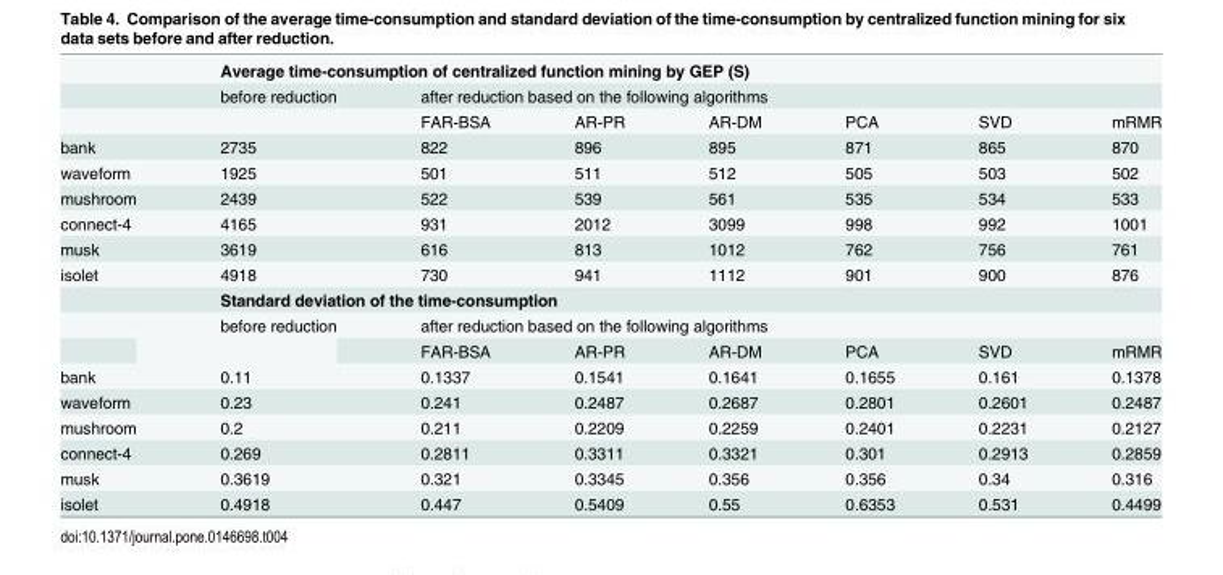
<table><thead><tr><td rowspan="3"></td><td colspan="7">Average time-consumption of centralized function mining by GEP (S)</td></tr><tr><td rowspan="2">before reduction</td><td colspan="6">after reduction based on the following algorithms</td></tr><tr><td>FAR-BSA</td><td>AR-PR</td><td>AR-DM</td><td>PCA</td><td>SVD</td><td>mRMR</td></tr></thead><tbody><tr><td>bank</td><td>2735</td><td>822</td><td>896</td><td>895</td><td>871</td><td>865</td><td>870</td></tr><tr><td>waveform</td><td>1925</td><td>501</td><td>511</td><td>512</td><td>505</td><td>503</td><td>502</td></tr><tr><td>mushroom</td><td>2439</td><td>522</td><td>539</td><td>561</td><td>535</td><td>534</td><td>533</td></tr><tr><td>connect-4</td><td>4165</td><td>931</td><td>2012</td><td>3099</td><td>998</td><td>992</td><td>1001</td></tr><tr><td>musk</td><td>3619</td><td>616</td><td>813</td><td>1012</td><td>762</td><td>756</td><td>761</td></tr><tr><td rowspan="4">isolet</td><td>4918</td><td>730</td><td>941</td><td>1112</td><td>901</td><td>900</td><td>876</td></tr><tr><td colspan="7">Standard deviation of the time-consumption</td></tr><tr><td rowspan="2">before reduction</td><td colspan="6">after reduction based on the following algorithms</td></tr><tr><td>FAR-BSA</td><td>AR-PR</td><td>AR-DM</td><td>PCA</td><td>SVD</td><td>mRMR</td></tr><tr><td>bank</td><td>0.11</td><td>0.1337</td><td>0.1541</td><td>0.1641</td><td>0.1655</td><td>0.161</td><td>0.1378</td></tr><tr><td>waveform</td><td>0.23</td><td>0.241</td><td>0.2487</td><td>0.2687</td><td>0.2801</td><td>0.2601</td><td>0.2487</td></tr><tr><td>mushroom</td><td>0.2</td><td>0.211</td><td>0.2209</td><td>0.2259</td><td>0.2401</td><td>0.2231</td><td>0.2127</td></tr><tr><td>connect-4</td><td>0.269</td><td>0.2811</td><td>0.3311</td><td>0.3321</td><td>0.301</td><td>0.2913</td><td>0.2859</td></tr><tr><td>musk</td><td>0.3619</td><td>0.321</td><td>0.3345</td><td>0.356</td><td>0.356</td><td>0.34</td><td>0.316</td></tr><tr><td>isolet</td><td>0.4918</td><td>0.447</td><td>0.5409</td><td>0.55</td><td>0.6353</td><td>0.531</td><td>0.4499</td></tr></tbody></table>